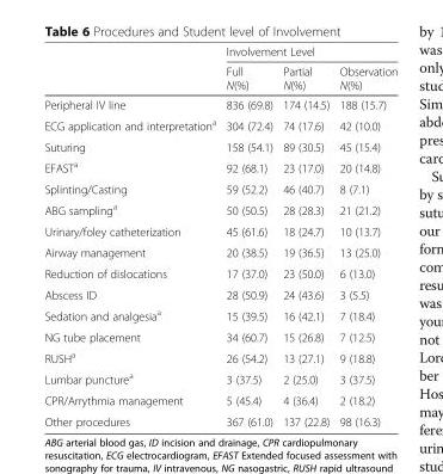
<table><thead><tr><td rowspan="2"></td><td colspan="3">Involvement Level</td></tr><tr><td>Full N(%)</td><td>Partial N(%)</td><td>Observation N(%)</td></tr></thead><tbody><tr><td>Peripheral IV line</td><td>836 (69.8)</td><td>174 (14.5)</td><td>188 (15.7)</td></tr><tr><td>ECG application and interpretation<sup>a</sup></td><td>304 (72.4)</td><td>74 (17.6)</td><td>42 (10.0)</td></tr><tr><td>Suturing</td><td>158 (54.1)</td><td>89 (30.5)</td><td>45 (15.4)</td></tr><tr><td>EFAST<sup>a</sup></td><td>92 (68.1)</td><td>23 (17.0)</td><td>20 (14.8)</td></tr><tr><td>Splinting/Casting</td><td>59 (52.2)</td><td>46 (40.7)</td><td>8 (7.1)</td></tr><tr><td>ABG sampling<sup>a</sup></td><td>50 (50.5)</td><td>28 (28.3)</td><td>21 (21.2)</td></tr><tr><td>Urinary/foley catheterization</td><td>45 (61.6)</td><td>18 (24.7)</td><td>10 (13.7)</td></tr><tr><td>Airway management</td><td>20 (38.5)</td><td>19 (36.5)</td><td>13 (25.0)</td></tr><tr><td>Reduction of dislocations</td><td>17 (37.0)</td><td>23 (50.0)</td><td>6 (13.0)</td></tr><tr><td>Abscess ID</td><td>28 (50.9)</td><td>24 (43.6)</td><td>3 (5.5)</td></tr><tr><td>Sedation and analgesia<sup>a</sup></td><td>15 (39.5)</td><td>16 (42.1)</td><td>7 (18.4)</td></tr><tr><td>NG tube placement</td><td>34 (60.7)</td><td>15 (26.8)</td><td>7 (12.5)</td></tr><tr><td>RUSH<sup>a</sup></td><td>26 (54.2)</td><td>13 (27.1)</td><td>9 (18.8)</td></tr><tr><td>Lumbar puncture<sup>a</sup></td><td>3 (37.5)</td><td>2 (25.0)</td><td>3 (37.5)</td></tr><tr><td>CPR/Arrythmia management</td><td>5 (45.4)</td><td>4 (36.4)</td><td>2 (18.2)</td></tr><tr><td>Other procedures</td><td>367 (61.0)</td><td>137 (22.8)</td><td>98 (16.3)</td></tr></tbody></table>